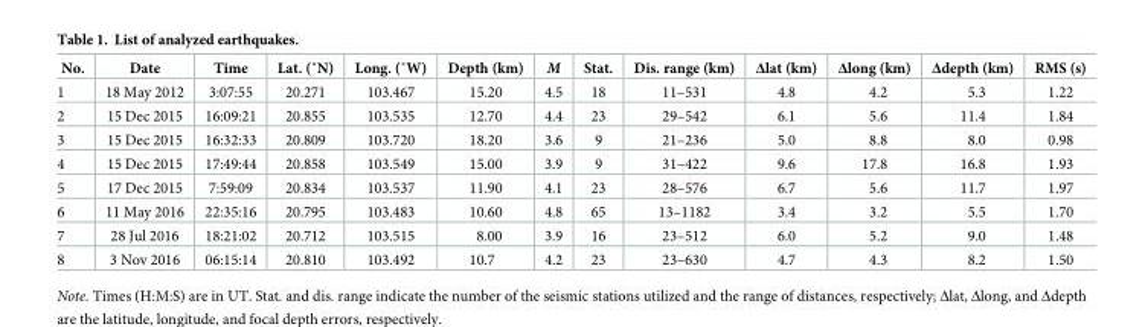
<table><thead><tr><td>No.</td><td>Date</td><td>Time</td><td>Lat. (˚N)</td><td>Long. (˚W)</td><td>Depth (km)</td><td>M</td><td>Stat.</td><td>Dis. range (km)</td><td>Δlat (km)</td><td>Δlong (km)</td><td>Δdepth (km)</td><td>RMS (s)</td></tr></thead><tbody><tr><td>1</td><td>18 May 2012</td><td>3:07:55</td><td>20.271</td><td>103.467</td><td>15.20</td><td>4.5</td><td>18</td><td>11–531</td><td>4.8</td><td>4.2</td><td>5.3</td><td>1.22</td></tr><tr><td>2</td><td>15 Dec 2015</td><td>16:09:21</td><td>20.855</td><td>103.535</td><td>12.70</td><td>4.4</td><td>23</td><td>29–542</td><td>6.1</td><td>5.6</td><td>11.4</td><td>1.84</td></tr><tr><td>3</td><td>15 Dec 2015</td><td>16:32:33</td><td>20.809</td><td>103.720</td><td>18.20</td><td>3.6</td><td>9</td><td>21–236</td><td>5.0</td><td>8.8</td><td>8.0</td><td>0.98</td></tr><tr><td>4</td><td>15 Dec 2015</td><td>17:49:44</td><td>20.858</td><td>103.549</td><td>15.00</td><td>3.9</td><td>9</td><td>31–422</td><td>9.6</td><td>17.8</td><td>16.8</td><td>1.93</td></tr><tr><td>5</td><td>17 Dec 2015</td><td>7:59:09</td><td>20.834</td><td>103.537</td><td>11.90</td><td>4.1</td><td>23</td><td>28–576</td><td>6.7</td><td>5.6</td><td>11.7</td><td>1.97</td></tr><tr><td>6</td><td>11 May 2016</td><td>22:35:16</td><td>20.795</td><td>103.483</td><td>10.60</td><td>4.8</td><td>65</td><td>13–1182</td><td>3.4</td><td>3.2</td><td>5.5</td><td>1.70</td></tr><tr><td>7</td><td>28 Jul 2016</td><td>18:21:02</td><td>20.712</td><td>103.515</td><td>8.00</td><td>3.9</td><td>16</td><td>23–512</td><td>6.0</td><td>5.2</td><td>9.0</td><td>1.48</td></tr><tr><td>8</td><td>3 Nov 2016</td><td>06:15:14</td><td>20.810</td><td>103.492</td><td>10.7</td><td>4.2</td><td>23</td><td>23–630</td><td>4.7</td><td>4.3</td><td>8.2</td><td>1.50</td></tr></tbody></table>